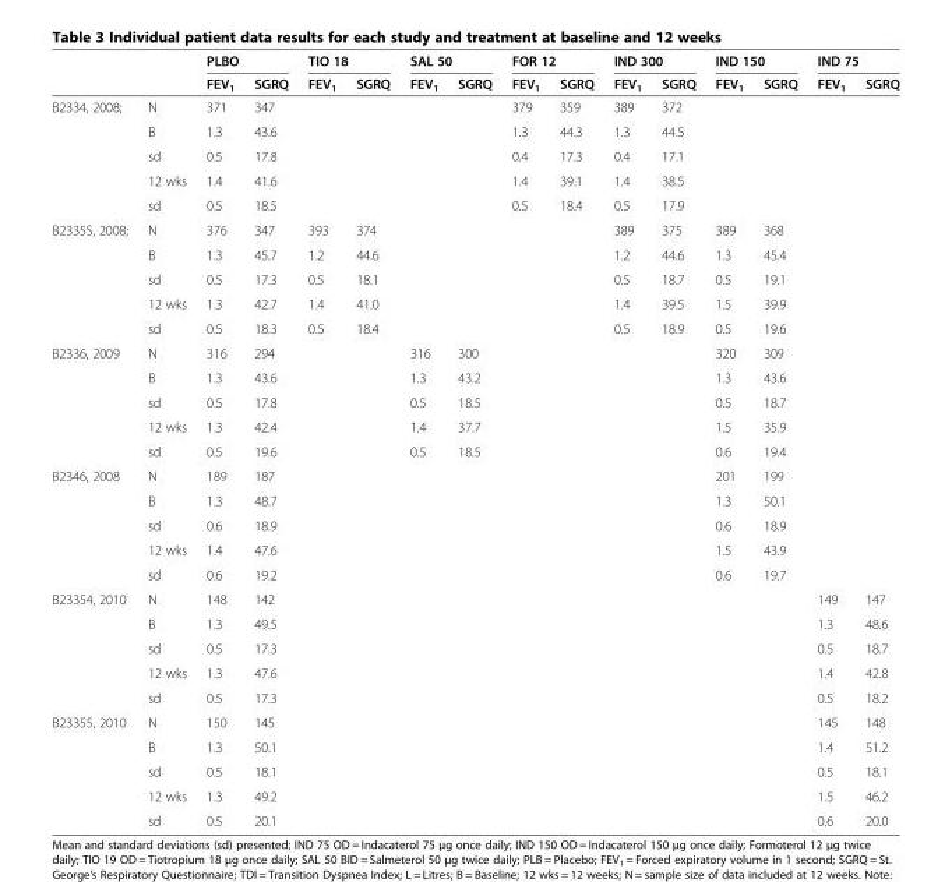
<table><thead><tr><td rowspan="2"></td><td rowspan="2"></td><td colspan="2">PLBO</td><td colspan="2">TIO 18</td><td colspan="2">SAL 50</td><td colspan="2">FOR 12</td><td colspan="2">IND 300</td><td colspan="2">IND 150</td><td colspan="2">IND 75</td></tr><tr><td>FEV<sub>1</sub></td><td>SGRQ</td><td>FEV<sub>1</sub></td><td>SGRQ</td><td>FEV<sub>1</sub></td><td>SGRQ</td><td>FEV<sub>1</sub></td><td>SGRQ</td><td>FEV<sub>1</sub></td><td>SGRQ</td><td>FEV<sub>1</sub></td><td>SGRQ</td><td>FEV<sub>1</sub></td><td>SGRQ</td></tr></thead><tbody><tr><td rowspan="5">B2334, 2008;</td><td>N</td><td>371</td><td>347</td><td></td><td></td><td></td><td></td><td>379</td><td>359</td><td>389</td><td>372</td><td></td><td></td><td></td><td></td></tr><tr><td>B</td><td>1.3</td><td>43.6</td><td></td><td></td><td></td><td></td><td>1.3</td><td>44.3</td><td>1.3</td><td>44.5</td><td></td><td></td><td></td><td></td></tr><tr><td>sd</td><td>0.5</td><td>17.8</td><td></td><td></td><td></td><td></td><td>0.4</td><td>17.3</td><td>0.4</td><td>17.1</td><td></td><td></td><td></td><td></td></tr><tr><td>12 wks</td><td>1.4</td><td>41.6</td><td></td><td></td><td></td><td></td><td>1.4</td><td>39.1</td><td>1.4</td><td>38.5</td><td></td><td></td><td></td><td></td></tr><tr><td>sd</td><td>0.5</td><td>18.5</td><td></td><td></td><td></td><td></td><td>0.5</td><td>18.4</td><td>0.5</td><td>17.9</td><td></td><td></td><td></td><td></td></tr><tr><td rowspan="5">B2335S, 2008;</td><td>N</td><td>376</td><td>347</td><td>393</td><td>374</td><td></td><td></td><td></td><td></td><td>389</td><td>375</td><td>389</td><td>368</td><td></td><td></td></tr><tr><td>B</td><td>1.3</td><td>45.7</td><td>1.2</td><td>44.6</td><td></td><td></td><td></td><td></td><td>1.2</td><td>44.6</td><td>1.3</td><td>45.4</td><td></td><td></td></tr><tr><td>sd</td><td>0.5</td><td>17.3</td><td>0.5</td><td>18.1</td><td></td><td></td><td></td><td></td><td>0.5</td><td>18.7</td><td>0.5</td><td>19.1</td><td></td><td></td></tr><tr><td>12 wks</td><td>1.3</td><td>42.7</td><td>1.4</td><td>41.0</td><td></td><td></td><td></td><td></td><td>1.4</td><td>39.5</td><td>1.5</td><td>39.9</td><td></td><td></td></tr><tr><td>sd</td><td>0.5</td><td>18.3</td><td>0.5</td><td>18.4</td><td></td><td></td><td></td><td></td><td>0.5</td><td>18.9</td><td>0.5</td><td>19.6</td><td></td><td></td></tr><tr><td rowspan="5">B2336, 2009</td><td>N</td><td>316</td><td>294</td><td></td><td></td><td>316</td><td>300</td><td></td><td></td><td></td><td></td><td>320</td><td>309</td><td></td><td></td></tr><tr><td>B</td><td>1.3</td><td>43.6</td><td></td><td></td><td>1.3</td><td>43.2</td><td></td><td></td><td></td><td></td><td>1.3</td><td>43.6</td><td></td><td></td></tr><tr><td>sd</td><td>0.5</td><td>17.8</td><td></td><td></td><td>0.5</td><td>18.5</td><td></td><td></td><td></td><td></td><td>0.5</td><td>18.7</td><td></td><td></td></tr><tr><td>12 wks</td><td>1.3</td><td>42.4</td><td></td><td></td><td>1.4</td><td>37.7</td><td></td><td></td><td></td><td></td><td>1.5</td><td>35.9</td><td></td><td></td></tr><tr><td>sd</td><td>0.5</td><td>19.6</td><td></td><td></td><td>0.5</td><td>18.5</td><td></td><td></td><td></td><td></td><td>0.6</td><td>19.4</td><td></td><td></td></tr><tr><td rowspan="5">B2346, 2008</td><td>N</td><td>189</td><td>187</td><td></td><td></td><td></td><td></td><td></td><td></td><td></td><td></td><td>201</td><td>199</td><td></td><td></td></tr><tr><td>B</td><td>1.3</td><td>48.7</td><td></td><td></td><td></td><td></td><td></td><td></td><td></td><td></td><td>1.3</td><td>50.1</td><td></td><td></td></tr><tr><td>sd</td><td>0.6</td><td>18.9</td><td></td><td></td><td></td><td></td><td></td><td></td><td></td><td></td><td>0.6</td><td>18.9</td><td></td><td></td></tr><tr><td>12 wks</td><td>1.4</td><td>47.6</td><td></td><td></td><td></td><td></td><td></td><td></td><td></td><td></td><td>1.5</td><td>43.9</td><td></td><td></td></tr><tr><td>sd</td><td>0.6</td><td>19.2</td><td></td><td></td><td></td><td></td><td></td><td></td><td></td><td></td><td>0.6</td><td>19.7</td><td></td><td></td></tr><tr><td rowspan="5">B23354, 2010</td><td>N</td><td>148</td><td>142</td><td></td><td></td><td></td><td></td><td></td><td></td><td></td><td></td><td></td><td></td><td>149</td><td>147</td></tr><tr><td>B</td><td>1.3</td><td>49.5</td><td></td><td></td><td></td><td></td><td></td><td></td><td></td><td></td><td></td><td></td><td>1.3</td><td>48.6</td></tr><tr><td>sd</td><td>0.5</td><td>17.3</td><td></td><td></td><td></td><td></td><td></td><td></td><td></td><td></td><td></td><td></td><td>0.5</td><td>18.7</td></tr><tr><td>12 wks</td><td>1.3</td><td>47.6</td><td></td><td></td><td></td><td></td><td></td><td></td><td></td><td></td><td></td><td></td><td>1.4</td><td>42.8</td></tr><tr><td>sd</td><td>0.5</td><td>17.3</td><td></td><td></td><td></td><td></td><td></td><td></td><td></td><td></td><td></td><td></td><td>0.5</td><td>18.2</td></tr><tr><td rowspan="5">B23355, 2010</td><td>N</td><td>150</td><td>145</td><td></td><td></td><td></td><td></td><td></td><td></td><td></td><td></td><td></td><td></td><td>145</td><td>148</td></tr><tr><td>B</td><td>1.3</td><td>50.1</td><td></td><td></td><td></td><td></td><td></td><td></td><td></td><td></td><td></td><td></td><td>1.4</td><td>51.2</td></tr><tr><td>sd</td><td>0.5</td><td>18.1</td><td></td><td></td><td></td><td></td><td></td><td></td><td></td><td></td><td></td><td></td><td>0.5</td><td>18.1</td></tr><tr><td>12 wks</td><td>1.3</td><td>49.2</td><td></td><td></td><td></td><td></td><td></td><td></td><td></td><td></td><td></td><td></td><td>1.5</td><td>46.2</td></tr><tr><td>sd</td><td>0.5</td><td>20.1</td><td></td><td></td><td></td><td></td><td></td><td></td><td></td><td></td><td></td><td></td><td>0.6</td><td>20.0</td></tr></tbody></table>